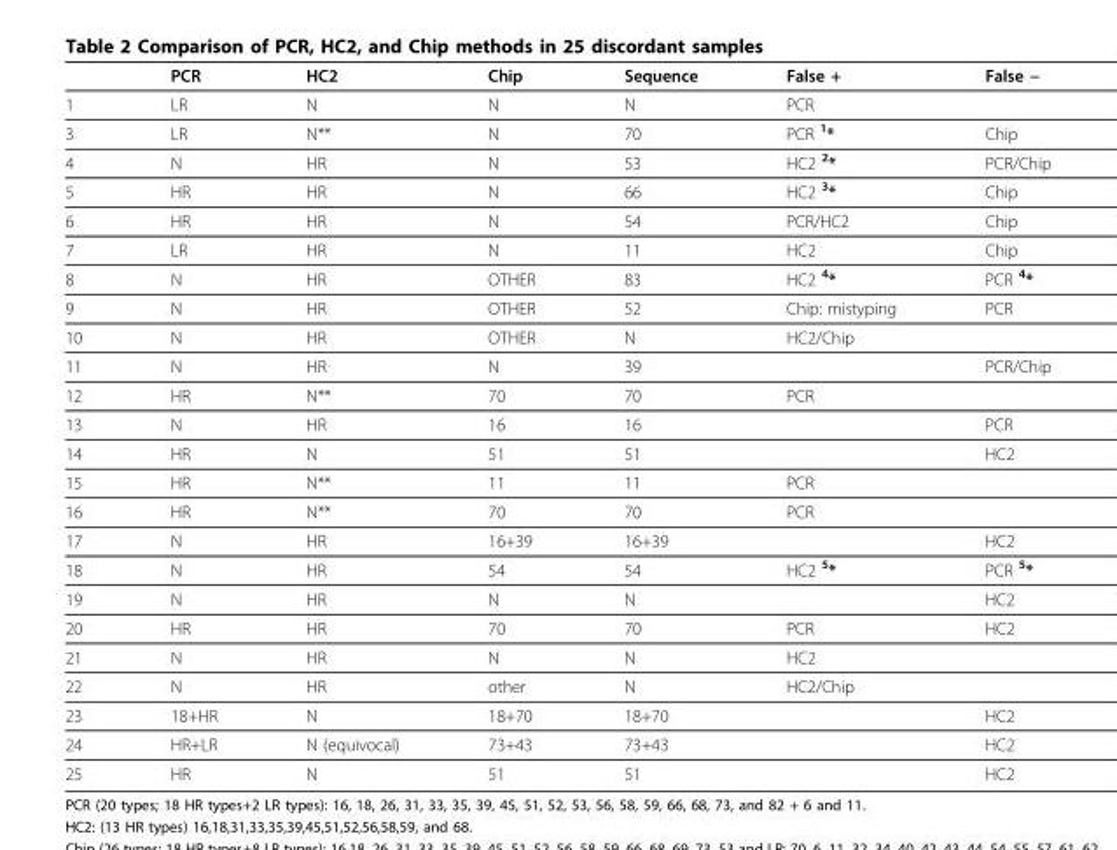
<table><thead><tr><td></td><td>PCR</td><td>HC2</td><td>Chip</td><td>Sequence</td><td>False +</td><td>False −</td></tr></thead><tbody><tr><td>1</td><td>LR</td><td>N</td><td>N</td><td>N</td><td>PCR</td><td></td></tr><tr><td>3</td><td>LR</td><td>N**</td><td>N</td><td>70</td><td>PCR <sup>1</sup>*</td><td>Chip</td></tr><tr><td>4</td><td>N</td><td>HR</td><td>N</td><td>53</td><td>HC2 <sup>2</sup>*</td><td>PCR/Chip</td></tr><tr><td>5</td><td>HR</td><td>HR</td><td>N</td><td>66</td><td>HC2 <sup>3</sup>*</td><td>Chip</td></tr><tr><td>6</td><td>HR</td><td>HR</td><td>N</td><td>54</td><td>PCR/HC2</td><td>Chip</td></tr><tr><td>7</td><td>LR</td><td>HR</td><td>N</td><td>11</td><td>HC2</td><td>Chip</td></tr><tr><td>8</td><td>N</td><td>HR</td><td>OTHER</td><td>83</td><td>HC2 <sup>4</sup>*</td><td>PCR <sup>4</sup>*</td></tr><tr><td>9</td><td>N</td><td>HR</td><td>OTHER</td><td>52</td><td>Chip: mistyping</td><td>PCR</td></tr><tr><td>10</td><td>N</td><td>HR</td><td>OTHER</td><td>N</td><td>HC2/Chip</td><td></td></tr><tr><td>11</td><td>N</td><td>HR</td><td>N</td><td>39</td><td></td><td>PCR/Chip</td></tr><tr><td>12</td><td>HR</td><td>N**</td><td>70</td><td>70</td><td>PCR</td><td></td></tr><tr><td>13</td><td>N</td><td>HR</td><td>16</td><td>16</td><td></td><td>PCR</td></tr><tr><td>14</td><td>HR</td><td>N</td><td>51</td><td>51</td><td></td><td>HC2</td></tr><tr><td>15</td><td>HR</td><td>N**</td><td>11</td><td>11</td><td>PCR</td><td></td></tr><tr><td>16</td><td>HR</td><td>N**</td><td>70</td><td>70</td><td>PCR</td><td></td></tr><tr><td>17</td><td>N</td><td>HR</td><td>16+39</td><td>16+39</td><td></td><td>HC2</td></tr><tr><td>18</td><td>N</td><td>HR</td><td>54</td><td>54</td><td>HC2 <sup>5</sup>*</td><td>PCR <sup>5</sup>*</td></tr><tr><td>19</td><td>N</td><td>HR</td><td>N</td><td>N</td><td></td><td>HC2</td></tr><tr><td>20</td><td>HR</td><td>HR</td><td>70</td><td>70</td><td>PCR</td><td>HC2</td></tr><tr><td>21</td><td>N</td><td>HR</td><td>N</td><td>N</td><td>HC2</td><td></td></tr><tr><td>22</td><td>N</td><td>HR</td><td>other</td><td>N</td><td>HC2/Chip</td><td></td></tr><tr><td>23</td><td>18+HR</td><td>N</td><td>18+70</td><td>18+70</td><td></td><td>HC2</td></tr><tr><td>24</td><td>HR+LR</td><td>N (equivocal)</td><td>73+43</td><td>73+43</td><td></td><td>HC2</td></tr><tr><td>25</td><td>HR</td><td>N</td><td>51</td><td>51</td><td></td><td>HC2</td></tr></tbody></table>